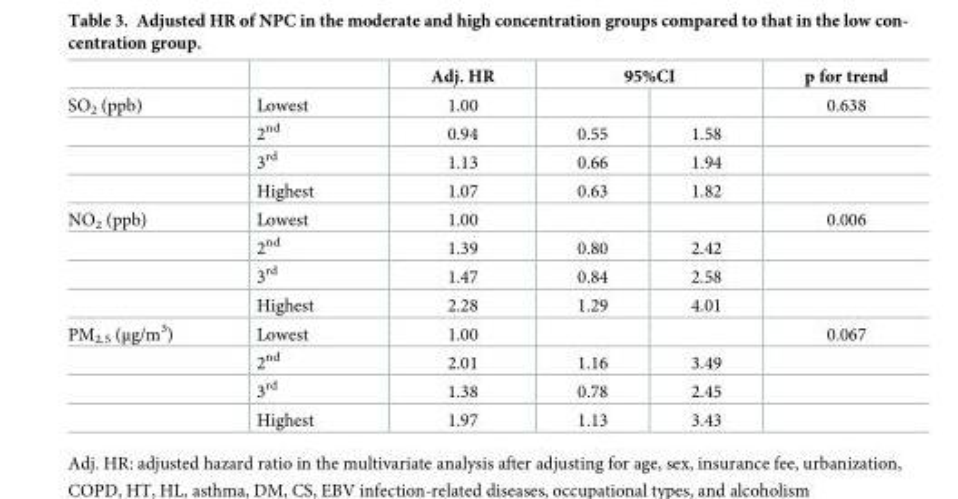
<table><thead><tr><td rowspan="2">SO<sub>2</sub> (ppb)</td><td rowspan="2">Lowest</td><td rowspan="2">Adj. HR 1.00</td><td colspan="2">95%CI</td><td rowspan="2">p for trend 0.638</td></tr><tr><td></td><td></td></tr></thead><tbody><tr><td></td><td>2<sup>nd</sup></td><td>0.94</td><td>0.55</td><td>1.58</td><td></td></tr><tr><td></td><td>3<sup>rd</sup></td><td>1.13</td><td>0.66</td><td>1.94</td><td></td></tr><tr><td></td><td>Highest</td><td>1.07</td><td>0.63</td><td>1.82</td><td></td></tr><tr><td rowspan="4">NO<sub>2</sub> (ppb)</td><td>Lowest</td><td>1.00</td><td></td><td></td><td>0.006</td></tr><tr><td>2<sup>nd</sup></td><td>1.39</td><td>0.80</td><td>2.42</td><td></td></tr><tr><td>3<sup>rd</sup></td><td>1.47</td><td>0.84</td><td>2.58</td><td></td></tr><tr><td>Highest</td><td>2.28</td><td>1.29</td><td>4.01</td><td></td></tr><tr><td rowspan="4">PM<sub>2.5</sub> (μg/m<sup>3</sup>)</td><td>Lowest</td><td>1.00</td><td></td><td></td><td>0.067</td></tr><tr><td>2<sup>nd</sup></td><td>2.01</td><td>1.16</td><td>3.49</td><td></td></tr><tr><td>3<sup>rd</sup></td><td>1.38</td><td>0.78</td><td>2.45</td><td></td></tr><tr><td>Highest</td><td>1.97</td><td>1.13</td><td>3.43</td><td></td></tr></tbody></table>